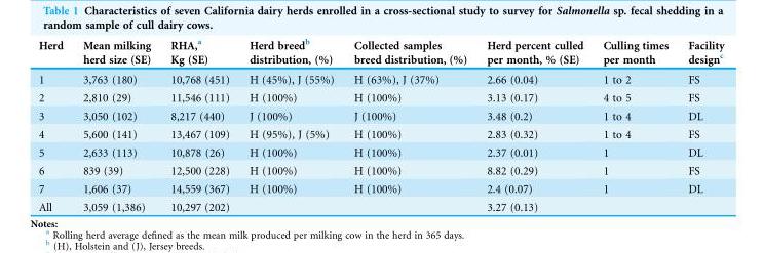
<table><thead><tr><td>Herd</td><td>Mean milking herd size (SE)</td><td>RHA,<sup>a</sup> Kg (SE)</td><td>Herd breed<sup>b</sup> distribution, (%)</td><td>Collected samples breed distribution, (%)</td><td>Herd percent culled per month, % (SE)</td><td>Culling times per month</td><td>Facility design<sup>c</sup></td></tr></thead><tbody><tr><td>1</td><td>3,763 (180)</td><td>10,768 (451)</td><td>H (45%), J (55%)</td><td>H (63%), J (37%)</td><td>2.66 (0.04)</td><td>1 to 2</td><td>FS</td></tr><tr><td>2</td><td>2,810 (29)</td><td>11,546 (111)</td><td>H (100%)</td><td>H (100%)</td><td>3.13 (0.17)</td><td>4 to 5</td><td>FS</td></tr><tr><td>3</td><td>3,050 (102)</td><td>8,217 (440)</td><td>J (100%)</td><td>J (100%)</td><td>3.48 (0.2)</td><td>1 to 4</td><td>DL</td></tr><tr><td>4</td><td>5,600 (141)</td><td>13,467 (109)</td><td>H (95%), J (5%)</td><td>H (100%)</td><td>2.83 (0.32)</td><td>1 to 4</td><td>FS</td></tr><tr><td>5</td><td>2,633 (113)</td><td>10,878 (26)</td><td>H (100%)</td><td>H (100%)</td><td>2.37 (0.01)</td><td>1</td><td>DL</td></tr><tr><td>6</td><td>839 (39)</td><td>12,500 (228)</td><td>H (100%)</td><td>H (100%)</td><td>8.82 (0.29)</td><td>1</td><td>FS</td></tr><tr><td>7</td><td>1,606 (37)</td><td>14,559 (367)</td><td>H (100%)</td><td>H (100%)</td><td>2.4 (0.07)</td><td>1</td><td>DL</td></tr><tr><td>All</td><td>3,059 (1,386)</td><td>10,297 (202)</td><td></td><td></td><td>3.27 (0.13)</td><td></td><td></td></tr></tbody></table>